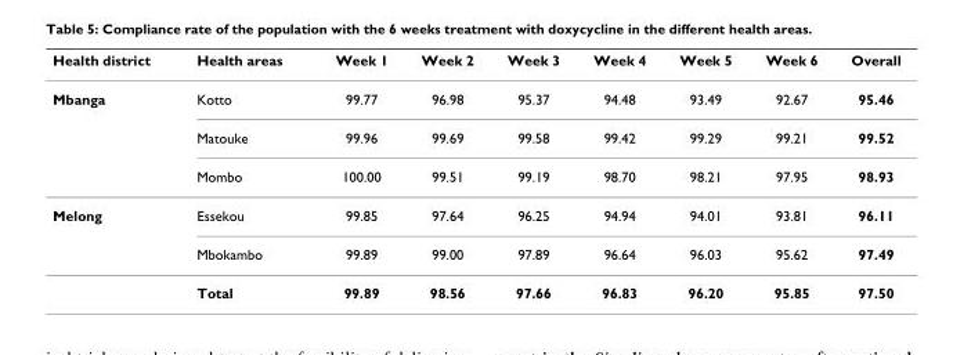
<table><thead><tr><td>Health district</td><td>Health areas</td><td>Week 1</td><td>Week 2</td><td>Week 3</td><td>Week 4</td><td>Week 5</td><td>Week 6</td><td>Overall</td></tr></thead><tbody><tr><td rowspan="3">Mbanga</td><td>Kotto</td><td>99.77</td><td>96.98</td><td>95.37</td><td>94.48</td><td>93.49</td><td>92.67</td><td>95.46</td></tr><tr><td>Matouke</td><td>99.96</td><td>99.69</td><td>99.58</td><td>99.42</td><td>99.29</td><td>99.21</td><td>99.52</td></tr><tr><td>Mombo</td><td>100.00</td><td>99.51</td><td>99.19</td><td>98.70</td><td>98.21</td><td>97.95</td><td>98.93</td></tr><tr><td rowspan="3">Melong</td><td>Essekou</td><td>99.85</td><td>97.64</td><td>96.25</td><td>94.94</td><td>94.01</td><td>93.81</td><td>96.11</td></tr><tr><td>Mbokambo</td><td>99.89</td><td>99.00</td><td>97.89</td><td>96.64</td><td>96.03</td><td>95.62</td><td>97.49</td></tr><tr><td>Total</td><td>99.89</td><td>98.56</td><td>97.66</td><td>96.83</td><td>96.20</td><td>95.85</td><td>97.50</td></tr></tbody></table>